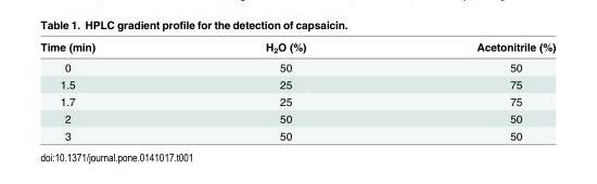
<table><thead><tr><td>Time (min)</td><td>H<sub>2</sub>O (%)</td><td>Acetonitrile (%)</td></tr></thead><tbody><tr><td>0</td><td>50</td><td>50</td></tr><tr><td>1.5</td><td>25</td><td>75</td></tr><tr><td>1.7</td><td>25</td><td>75</td></tr><tr><td>2</td><td>50</td><td>50</td></tr><tr><td>3</td><td>50</td><td>50</td></tr></tbody></table>